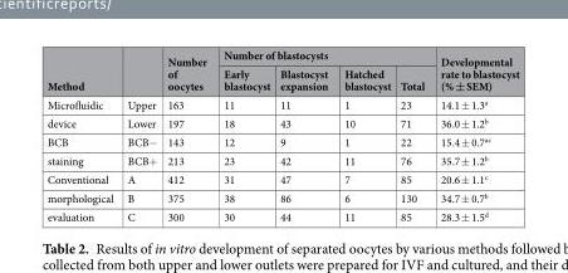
<table><thead><tr><td rowspan="2">Method</td><td rowspan="2"></td><td rowspan="2">Number of oocytes</td><td colspan="4">Number of blastocysts</td><td rowspan="2">Developmental rate to blastocyst (% ± SEM)</td></tr><tr><td>Early blastocyst</td><td>Blastocyst expansion</td><td>Hatched blastocyst</td><td>Total</td></tr></thead><tbody><tr><td>Microfluidic</td><td>Upper</td><td>163</td><td>11</td><td>11</td><td>1</td><td>23</td><td>14.1 ± 1.3<sup>a</sup></td></tr><tr><td>device</td><td>Lower</td><td>197</td><td>18</td><td>43</td><td>10</td><td>71</td><td>36.0 ± 1.2<sup>b</sup></td></tr><tr><td>BCB</td><td>BCB−</td><td>143</td><td>12</td><td>9</td><td>1</td><td>22</td><td>15.4 ± 0.7<sup>ac</sup></td></tr><tr><td>staining</td><td>BCB+</td><td>213</td><td>23</td><td>42</td><td>11</td><td>76</td><td>35.7 ± 1.2<sup>b</sup></td></tr><tr><td>Conventional</td><td>A</td><td>412</td><td>31</td><td>47</td><td>7</td><td>85</td><td>20.6 ± 1.1<sup>c</sup></td></tr><tr><td>morphological</td><td>B</td><td>375</td><td>38</td><td>86</td><td>6</td><td>130</td><td>34.7 ± 0.7<sup>b</sup></td></tr><tr><td>evaluation</td><td>C</td><td>300</td><td>30</td><td>44</td><td>11</td><td>85</td><td>28.3 ± 1.5<sup>d</sup></td></tr></tbody></table>